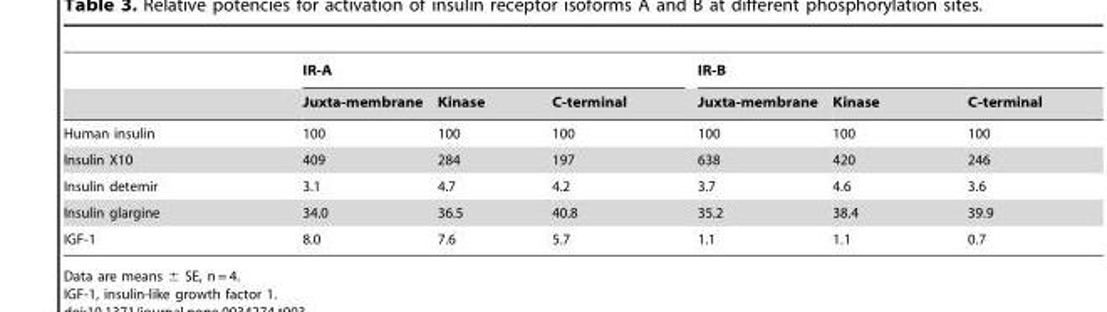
<table><thead><tr><td rowspan="2"></td><td colspan="3">IR-A</td><td colspan="3">IR-B</td></tr><tr><td>Juxta-membrane</td><td>Kinase</td><td>C-terminal</td><td>Juxta-membrane</td><td>Kinase</td><td>C-terminal</td></tr></thead><tbody><tr><td>Human insulin</td><td>100</td><td>100</td><td>100</td><td>100</td><td>100</td><td>100</td></tr><tr><td>Insulin X10</td><td>409</td><td>284</td><td>197</td><td>638</td><td>420</td><td>246</td></tr><tr><td>Insulin detemir</td><td>3.1</td><td>4.7</td><td>4.2</td><td>3.7</td><td>4.6</td><td>3.6</td></tr><tr><td>Insulin glargine</td><td>34.0</td><td>36.5</td><td>40.8</td><td>35.2</td><td>38.4</td><td>39.9</td></tr><tr><td>IGF-1</td><td>8.0</td><td>7.6</td><td>5.7</td><td>1.1</td><td>1.1</td><td>0.7</td></tr></tbody></table>